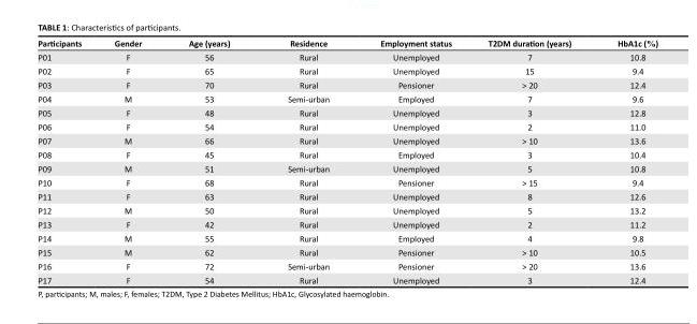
<table><thead><tr><td>Participants</td><td>Gender</td><td>Age (years)</td><td>Residence</td><td>Employment status</td><td>T2DM duration (years)</td><td>HbA1c (%)</td></tr></thead><tbody><tr><td>P01</td><td>F</td><td>56</td><td>Rural</td><td>Unemployed</td><td>7</td><td>10.8</td></tr><tr><td>P02</td><td>F</td><td>65</td><td>Rural</td><td>Unemployed</td><td>15</td><td>9.4</td></tr><tr><td>P03</td><td>F</td><td>70</td><td>Rural</td><td>Pensioner</td><td>&gt; 20</td><td>12.4</td></tr><tr><td>P04</td><td>M</td><td>53</td><td>Semi-urban</td><td>Employed</td><td>7</td><td>9.6</td></tr><tr><td>P05</td><td>F</td><td>48</td><td>Rural</td><td>Unemployed</td><td>3</td><td>12.8</td></tr><tr><td>P06</td><td>F</td><td>54</td><td>Rural</td><td>Unemployed</td><td>2</td><td>11.0</td></tr><tr><td>P07</td><td>M</td><td>66</td><td>Rural</td><td>Unemployed</td><td>&gt; 10</td><td>13.6</td></tr><tr><td>P08</td><td>F</td><td>45</td><td>Rural</td><td>Employed</td><td>3</td><td>10.4</td></tr><tr><td>P09</td><td>M</td><td>51</td><td>Semi-urban</td><td>Unemployed</td><td>5</td><td>10.8</td></tr><tr><td>P10</td><td>F</td><td>68</td><td>Rural</td><td>Pensioner</td><td>&gt; 15</td><td>9.4</td></tr><tr><td>P11</td><td>F</td><td>63</td><td>Rural</td><td>Unemployed</td><td>8</td><td>12.6</td></tr><tr><td>P12</td><td>M</td><td>50</td><td>Rural</td><td>Unemployed</td><td>5</td><td>13.2</td></tr><tr><td>P13</td><td>F</td><td>42</td><td>Rural</td><td>Unemployed</td><td>2</td><td>11.2</td></tr><tr><td>P14</td><td>M</td><td>55</td><td>Rural</td><td>Employed</td><td>4</td><td>9.8</td></tr><tr><td>P15</td><td>M</td><td>62</td><td>Rural</td><td>Pensioner</td><td>&gt; 10</td><td>10.5</td></tr><tr><td>P16</td><td>F</td><td>72</td><td>Semi-urban</td><td>Pensioner</td><td>&gt; 20</td><td>13.6</td></tr><tr><td>P17</td><td>F</td><td>54</td><td>Rural</td><td>Unemployed</td><td>3</td><td>12.4</td></tr></tbody></table>